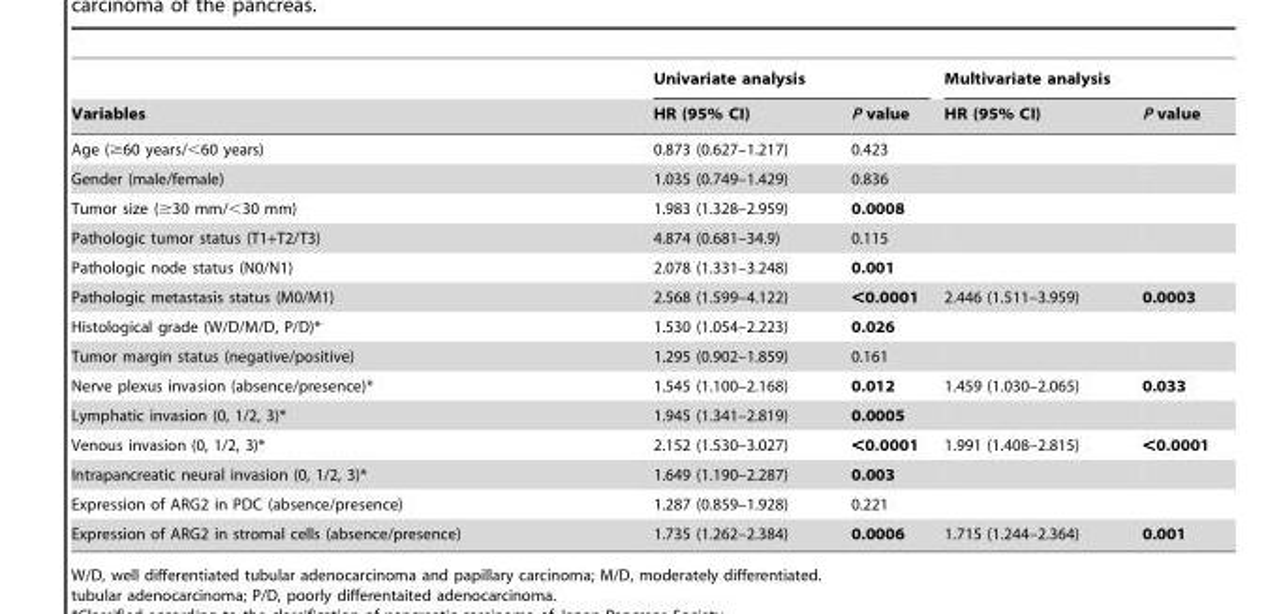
<table><thead><tr><td rowspan="2">Variables</td><td colspan="2">Univariate analysis</td><td colspan="2">Multivariate analysis</td></tr><tr><td>HR (95% CI)</td><td>P value</td><td>HR (95% CI)</td><td>P value</td></tr></thead><tbody><tr><td>Age (≥60 years/&lt;60 years)</td><td>0.873 (0.627–1.217)</td><td>0.423</td><td></td><td></td></tr><tr><td>Gender (male/female)</td><td>1.035 (0.749–1.429)</td><td>0.836</td><td></td><td></td></tr><tr><td>Tumor size (≥30 mm/&lt;30 mm)</td><td>1.983 (1.328–2.959)</td><td>0.0008</td><td></td><td></td></tr><tr><td>Pathologic tumor status (T1+T2/T3)</td><td>4.874 (0.681–34.9)</td><td>0.115</td><td></td><td></td></tr><tr><td>Pathologic node status (N0/N1)</td><td>2.078 (1.331–3.248)</td><td>0.001</td><td></td><td></td></tr><tr><td>Pathologic metastasis status (M0/M1)</td><td>2.568 (1.599–4.122)</td><td>&lt;0.0001</td><td>2.446 (1.511–3.959)</td><td>0.0003</td></tr><tr><td>Histological grade (W/D/M/D, P/D)*</td><td>1.530 (1.054–2.223)</td><td>0.026</td><td></td><td></td></tr><tr><td>Tumor margin status (negative/positive)</td><td>1.295 (0.902–1.859)</td><td>0.161</td><td></td><td></td></tr><tr><td>Nerve plexus invasion (absence/presence)*</td><td>1.545 (1.100–2.168)</td><td>0.012</td><td>1.459 (1.030–2.065)</td><td>0.033</td></tr><tr><td>Lymphatic invasion (0, 1/2, 3)*</td><td>1.945 (1.341–2.819)</td><td>0.0005</td><td></td><td></td></tr><tr><td>Venous invasion (0, 1/2, 3)*</td><td>2.152 (1.530–3.027)</td><td>&lt;0.0001</td><td>1.991 (1.408–2.815)</td><td>&lt;0.0001</td></tr><tr><td>Intrapancreatic neural invasion (0, 1/2, 3)*</td><td>1.649 (1.190–2.287)</td><td>0.003</td><td></td><td></td></tr><tr><td>Expression of ARG2 in PDC (absence/presence)</td><td>1.287 (0.859–1.928)</td><td>0.221</td><td></td><td></td></tr><tr><td>Expression of ARG2 in stromal cells (absence/presence)</td><td>1.735 (1.262–2.384)</td><td>0.0006</td><td>1.715 (1.244–2.364)</td><td>0.001</td></tr></tbody></table>